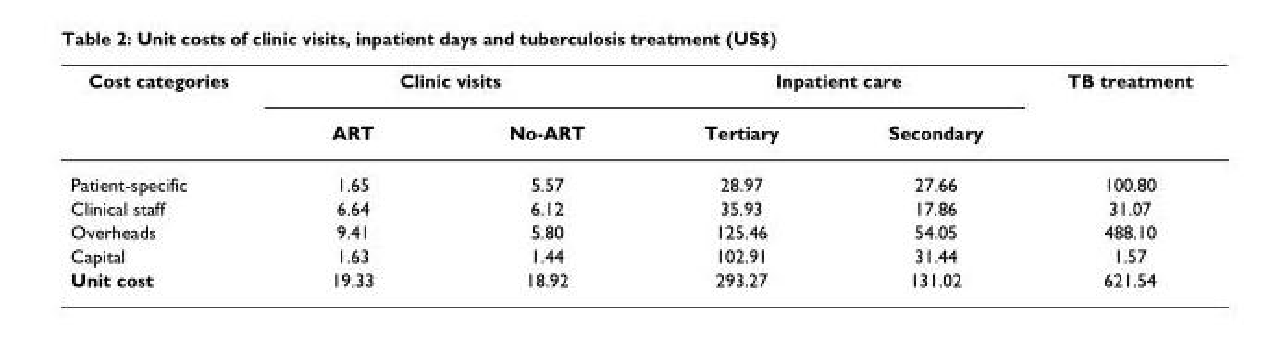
<table><thead><tr><td rowspan="2">Cost categories</td><td colspan="2">Clinic visits</td><td colspan="2">Inpatient care</td><td rowspan="2">TB treatment</td></tr><tr><td>ART</td><td>No-ART</td><td>Tertiary</td><td>Secondary</td></tr></thead><tbody><tr><td>Patient-specific</td><td>1.65</td><td>5.57</td><td>28.97</td><td>27.66</td><td>100.80</td></tr><tr><td>Clinical staff</td><td>6.64</td><td>6.12</td><td>35.93</td><td>17.86</td><td>31.07</td></tr><tr><td>Overheads</td><td>9.41</td><td>5.80</td><td>125.46</td><td>54.05</td><td>488.10</td></tr><tr><td>Capital</td><td>1.63</td><td>1.44</td><td>102.91</td><td>31.44</td><td>1.57</td></tr><tr><td>Unit cost</td><td>19.33</td><td>18.92</td><td>293.27</td><td>131.02</td><td>621.54</td></tr></tbody></table>